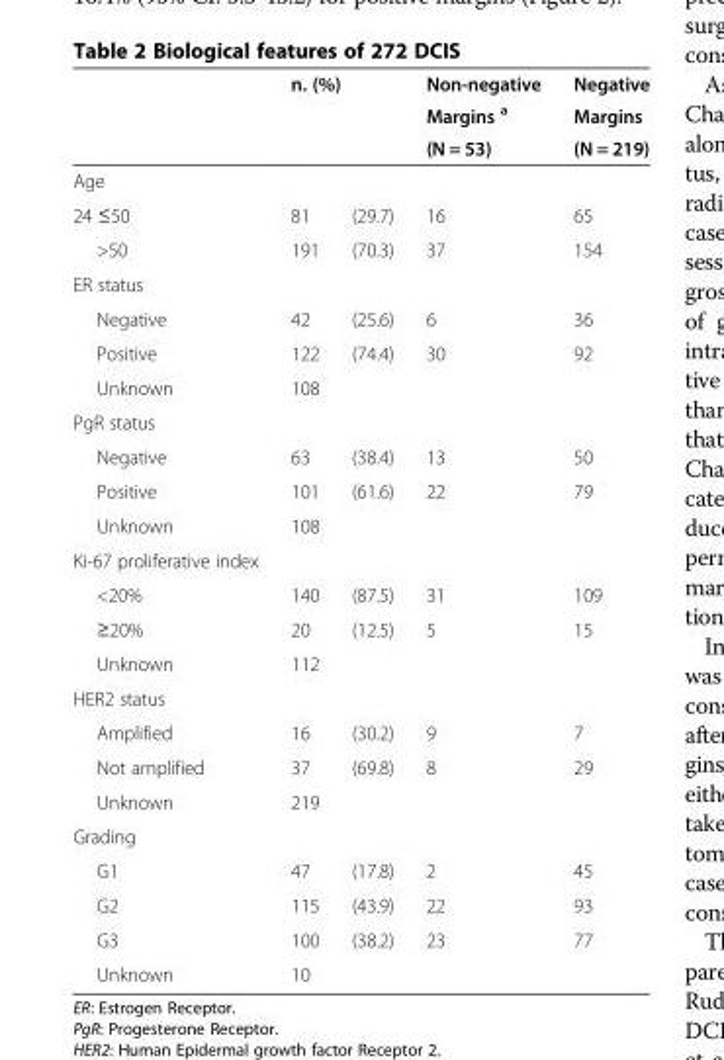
<table><thead><tr><td rowspan="4">Age</td><td rowspan="3" colspan="2">n. (%)</td><td rowspan="4">Non-negative Margins <sup>a</sup> (N = 53)</td><td rowspan="4">Negative Margins (N = 219)</td></tr><tr></tr><tr></tr><tr><td></td><td></td></tr></thead><tbody><tr><td>24 ≤50</td><td>81</td><td>(29.7)</td><td>16</td><td>65</td></tr><tr><td>&gt;50</td><td>191</td><td>(70.3)</td><td>37</td><td>154</td></tr><tr><td colspan="5">ER status</td></tr><tr><td>Negative</td><td>42</td><td>(25.6)</td><td>6</td><td>36</td></tr><tr><td>Positive</td><td>122</td><td>(74.4)</td><td>30</td><td>92</td></tr><tr><td>Unknown</td><td>108</td><td></td><td></td><td></td></tr><tr><td colspan="5">PgR status</td></tr><tr><td>Negative</td><td>63</td><td>(38.4)</td><td>13</td><td>50</td></tr><tr><td>Positive</td><td>101</td><td>(61.6)</td><td>22</td><td>79</td></tr><tr><td>Unknown</td><td>108</td><td></td><td></td><td></td></tr><tr><td colspan="5">Ki-67 proliferative index</td></tr><tr><td>&lt;20%</td><td>140</td><td>(87.5)</td><td>31</td><td>109</td></tr><tr><td>≥20%</td><td>20</td><td>(12.5)</td><td>5</td><td>15</td></tr><tr><td>Unknown</td><td>112</td><td></td><td></td><td></td></tr><tr><td colspan="5">HER2 status</td></tr><tr><td>Amplified</td><td>16</td><td>(30.2)</td><td>9</td><td>7</td></tr><tr><td>Not amplified</td><td>37</td><td>(69.8)</td><td>8</td><td>29</td></tr><tr><td>Unknown</td><td>219</td><td></td><td></td><td></td></tr><tr><td colspan="5">Grading</td></tr><tr><td>G1</td><td>47</td><td>(17.8)</td><td>2</td><td>45</td></tr><tr><td>G2</td><td>115</td><td>(43.9)</td><td>22</td><td>93</td></tr><tr><td>G3</td><td>100</td><td>(38.2)</td><td>23</td><td>77</td></tr><tr><td>Unknown</td><td>10</td><td></td><td></td><td></td></tr></tbody></table>